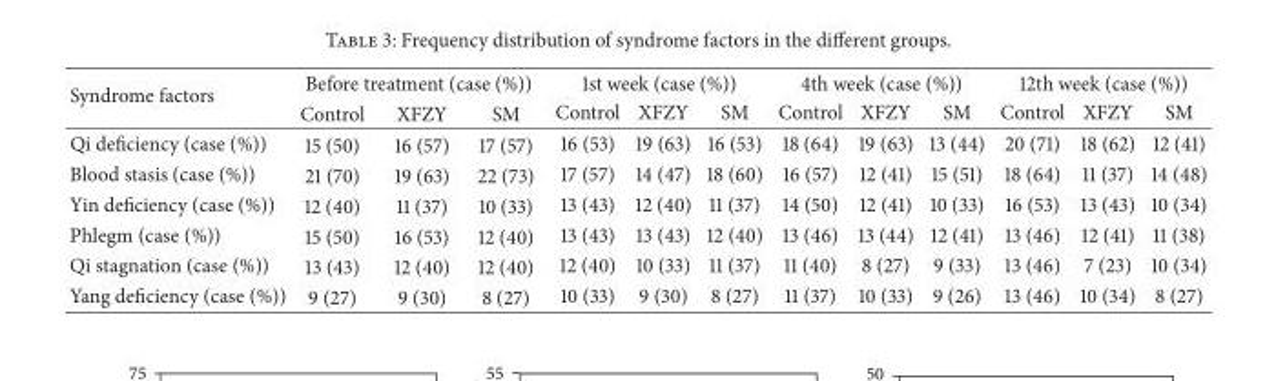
<table><thead><tr><td rowspan="2">Syndrome factors</td><td colspan="3">Before treatment (case (%))</td><td colspan="3">1st week (case (%))</td><td colspan="3">4th week (case (%))</td><td colspan="3">12th week (case (%))</td></tr><tr><td>Control</td><td>XFZY</td><td>SM</td><td>Control</td><td>XFZY</td><td>SM</td><td>Control</td><td>XFZY</td><td>SM</td><td>Control</td><td>XFZY</td><td>SM</td></tr></thead><tbody><tr><td>Qi deficiency (case (%))</td><td>15 (50)</td><td>16 (57)</td><td>17 (57)</td><td>16 (53)</td><td>19 (63)</td><td>16 (53)</td><td>18 (64)</td><td>19 (63)</td><td>13 (44)</td><td>20 (71)</td><td>18 (62)</td><td>12 (41)</td></tr><tr><td>Blood stasis (case (%))</td><td>21 (70)</td><td>19 (63)</td><td>22 (73)</td><td>17 (57)</td><td>14 (47)</td><td>18 (60)</td><td>16 (57)</td><td>12 (41)</td><td>15 (51)</td><td>18 (64)</td><td>11 (37)</td><td>14 (48)</td></tr><tr><td>Yin deficiency (case (%))</td><td>12 (40)</td><td>11 (37)</td><td>10 (33)</td><td>13 (43)</td><td>12 (40)</td><td>11 (37)</td><td>14 (50)</td><td>12 (41)</td><td>10 (33)</td><td>16 (53)</td><td>13 (43)</td><td>10 (34)</td></tr><tr><td>Phlegm (case (%))</td><td>15 (50)</td><td>16 (53)</td><td>12 (40)</td><td>13 (43)</td><td>13 (43)</td><td>12 (40)</td><td>13 (46)</td><td>13 (44)</td><td>12 (41)</td><td>13 (46)</td><td>12 (41)</td><td>11 (38)</td></tr><tr><td>Qi stagnation (case (%))</td><td>13 (43)</td><td>12 (40)</td><td>12 (40)</td><td>12 (40)</td><td>10 (33)</td><td>11 (37)</td><td>11 (40)</td><td>8 (27)</td><td>9 (33)</td><td>13 (46)</td><td>7 (23)</td><td>10 (34)</td></tr><tr><td>Yang deficiency (case (%))</td><td>9 (27)</td><td>9 (30)</td><td>8 (27)</td><td>10 (33)</td><td>9 (30)</td><td>8 (27)</td><td>11 (37)</td><td>10 (33)</td><td>9 (26)</td><td>13 (46)</td><td>10 (34)</td><td>8 (27)</td></tr></tbody></table>